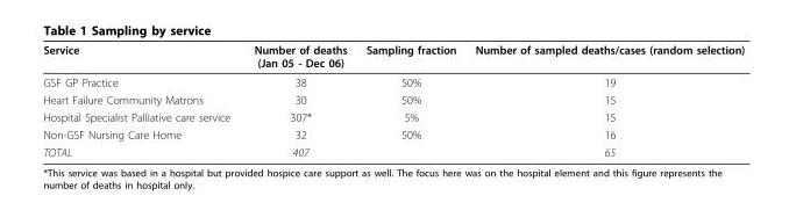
<table><thead><tr><td>Service</td><td>Number of deaths (Jan 05 - Dec 06)</td><td>Sampling fraction</td><td>Number of sampled deaths/cases (random selection)</td></tr></thead><tbody><tr><td>GSF GP Practice</td><td>38</td><td>50%</td><td>19</td></tr><tr><td>Heart Failure Community Matrons</td><td>30</td><td>50%</td><td>15</td></tr><tr><td>Hospital Specialist Palliative care service</td><td>307*</td><td>5%</td><td>15</td></tr><tr><td>Non-GSF Nursing Care Home</td><td>32</td><td>50%</td><td>16</td></tr><tr><td>TOTAL</td><td>407</td><td></td><td>65</td></tr></tbody></table>